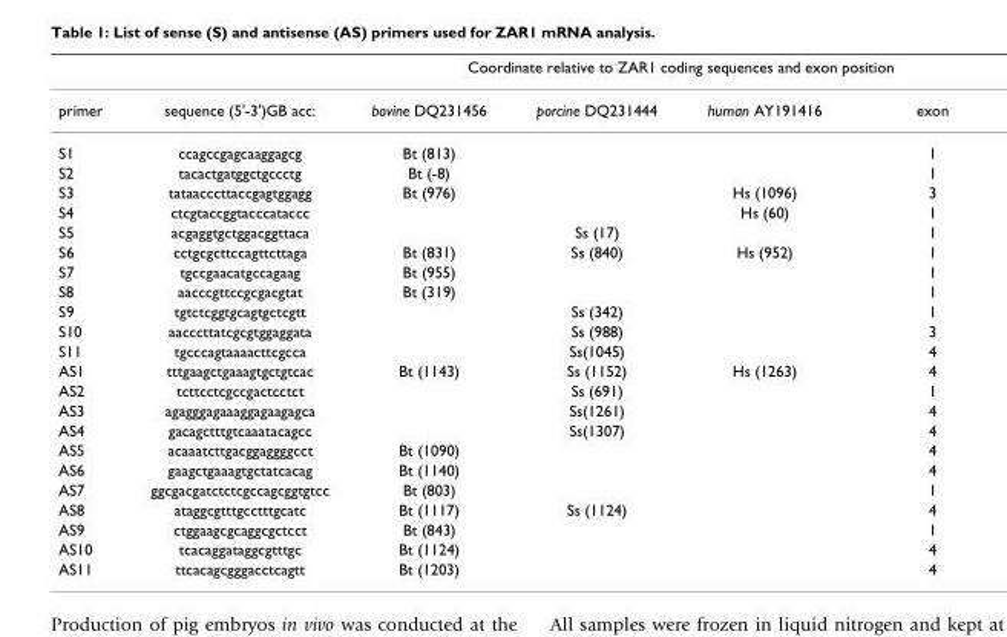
<table><thead><tr><td rowspan="2">primer</td><td rowspan="2">sequence (5&#x27;-3&#x27;)GB acc:</td><td colspan="4">Coordinate relative to ZAR1 coding sequences and exon position</td></tr><tr><td>bovine DQ231456</td><td>porcine DQ231444</td><td>human AY191416</td><td>exon</td></tr></thead><tbody><tr><td>S1</td><td>ccagccgagcaaggagcg</td><td>Bt (813)</td><td></td><td></td><td>1</td></tr><tr><td>S2</td><td>tacactgatggctgccctg</td><td>Bt (-8)</td><td></td><td></td><td>1</td></tr><tr><td>S3</td><td>tataacccttaccgagtggagg</td><td>Bt (976)</td><td></td><td>Hs (1096)</td><td>3</td></tr><tr><td>S4</td><td>ctcgtaccggtacccataccc</td><td></td><td></td><td>Hs (60)</td><td>1</td></tr><tr><td>S5</td><td>acgaggtgctggacggttaca</td><td></td><td>Ss (17)</td><td></td><td>1</td></tr><tr><td>S6</td><td>cctgcgcttccagttcttaga</td><td>Bt (831)</td><td>Ss (840)</td><td>Hs (952)</td><td>1</td></tr><tr><td>S7</td><td>tgccgaacatgccagaag</td><td>Bt (955)</td><td></td><td></td><td>1</td></tr><tr><td>S8</td><td>aacccgttccgcgacgtat</td><td>Bt (319)</td><td></td><td></td><td>1</td></tr><tr><td>S9</td><td>tgtctcggtgcagtgctcgtt</td><td></td><td>Ss (342)</td><td></td><td>1</td></tr><tr><td>S10</td><td>aacccttatcgcgtggaggata</td><td></td><td>Ss (988)</td><td></td><td>3</td></tr><tr><td>S11</td><td>tgcccagtaaaacttcgcca</td><td></td><td>Ss(1045)</td><td></td><td>4</td></tr><tr><td>AS1</td><td>tttgaagctgaaagtgctgtcac</td><td>Bt (1143)</td><td>Ss (1152)</td><td>Hs (1263)</td><td>4</td></tr><tr><td>AS2</td><td>tcttcctcgccgactcctct</td><td></td><td>Ss (691)</td><td></td><td>1</td></tr><tr><td>AS3</td><td>agagggagaaaggagaagagca</td><td></td><td>Ss(1261)</td><td></td><td>4</td></tr><tr><td>AS4</td><td>gacagctttgtcaaatacagcc</td><td></td><td>Ss(1307)</td><td></td><td>4</td></tr><tr><td>AS5</td><td>acaaatcttgacggaggggcct</td><td>Bt (1090)</td><td></td><td></td><td>4</td></tr><tr><td>AS6</td><td>gaagctgaaagtgctatcacag</td><td>Bt (1140)</td><td></td><td></td><td>4</td></tr><tr><td>AS7</td><td>ggcgacgatctctcgccagcggtgtcc</td><td>Bt (803)</td><td></td><td></td><td>1</td></tr><tr><td>AS8</td><td>ataggcgtttgcctttgcatc</td><td>Bt (1117)</td><td>Ss (1124)</td><td></td><td>4</td></tr><tr><td>AS9</td><td>ctggaagcgcaggcgctcct</td><td>Bt (843)</td><td></td><td></td><td>1</td></tr><tr><td>AS10</td><td>tcacaggataggcgtttgc</td><td>Bt (1124)</td><td></td><td></td><td>4</td></tr><tr><td>AS11</td><td>ttcacagcgggacctcagtt</td><td>Bt (1203)</td><td></td><td></td><td>4</td></tr></tbody></table>